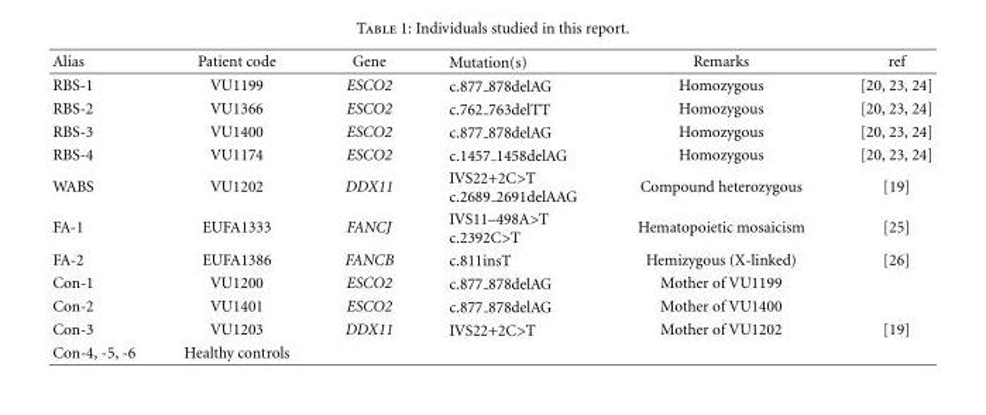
<table><thead><tr><td>Alias</td><td>Patient code</td><td>Gene</td><td>Mutation(s)</td><td>Remarks</td><td>ref</td></tr></thead><tbody><tr><td>RBS-1</td><td>VU1199</td><td>ESCO2</td><td>c.877 878delAG</td><td>Homozygous</td><td>[20, 23, 24]</td></tr><tr><td>RBS-2</td><td>VU1366</td><td>ESCO2</td><td>c.762 763delTT</td><td>Homozygous</td><td>[20, 23, 24]</td></tr><tr><td>RBS-3</td><td>VU1400</td><td>ESCO2</td><td>c.877 878delAG</td><td>Homozygous</td><td>[20, 23, 24]</td></tr><tr><td>RBS-4</td><td>VU1174</td><td>ESCO2</td><td>c.1457 1458delAG</td><td>Homozygous</td><td>[20, 23, 24]</td></tr><tr><td>WABS</td><td>VU1202</td><td>DDX11</td><td>IVS22+2C&gt;T c.2689 2691delAAG</td><td>Compound heterozygous</td><td>[19]</td></tr><tr><td>FA-1</td><td>EUFA1333</td><td>FANCJ</td><td>IVS11–498A&gt;T c.2392C&gt;T</td><td>Hematopoietic mosaicism</td><td>[25]</td></tr><tr><td>FA-2</td><td>EUFA1386</td><td>FANCB</td><td>c.811insT</td><td>Hemizygous (X-linked)</td><td>[26]</td></tr><tr><td>Con-1</td><td>VU1200</td><td>ESCO2</td><td>c.877 878delAG</td><td>Mother of VU1199</td><td></td></tr><tr><td>Con-2</td><td>VU1401</td><td>ESCO2</td><td>c.877 878delAG</td><td>Mother of VU1400</td><td></td></tr><tr><td>Con-3</td><td>VU1203</td><td>DDX11</td><td>IVS22+2C&gt;T</td><td>Mother of VU1202</td><td>[19]</td></tr><tr><td>Con-4, -5, -6</td><td>Healthy controls</td><td></td><td></td><td></td><td></td></tr></tbody></table>